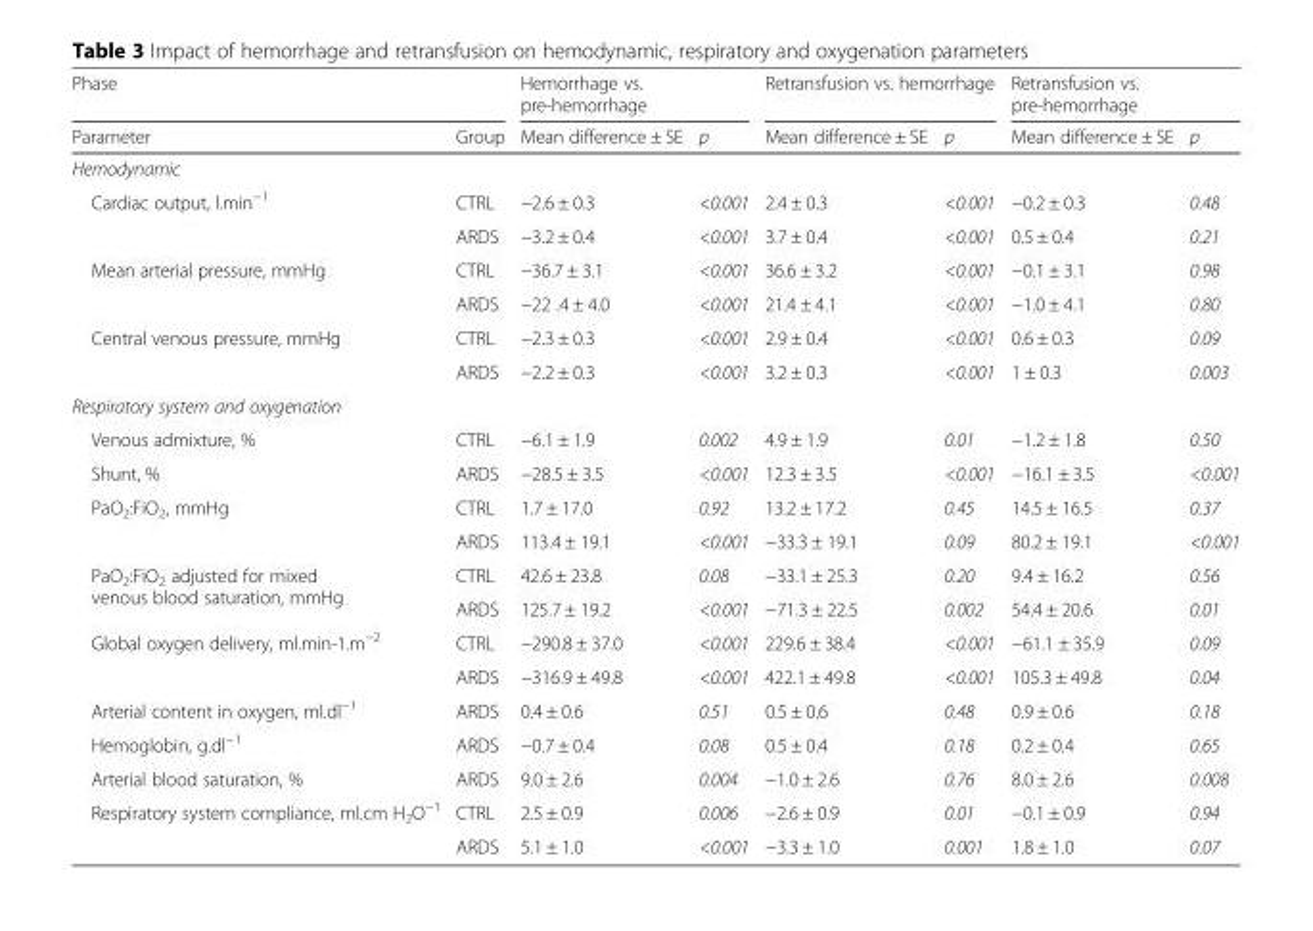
<table><thead><tr><td colspan="2">Phase</td><td colspan="2">Hemorrhage vs. pre-hemorrhage</td><td colspan="2">Retransfusion vs. hemorrhage</td><td colspan="2">Retransfusion vs. pre-hemorrhage</td></tr><tr><td>Parameter</td><td>Group</td><td>Mean difference ± SE</td><td>p</td><td>Mean difference ± SE</td><td>p</td><td>Mean difference ± SE</td><td>p</td></tr></thead><tbody><tr><td colspan="8">Hemodynamic</td></tr><tr><td rowspan="2">Cardiac output, l.min<sup>−1</sup></td><td>CTRL</td><td>−2.6 ± 0.3</td><td>&lt;0.001</td><td>2.4 ± 0.3</td><td>&lt;0.001</td><td>−0.2 ± 0.3</td><td>0.48</td></tr><tr><td>ARDS</td><td>−3.2 ± 0.4</td><td>&lt;0.001</td><td>3.7 ± 0.4</td><td>&lt;0.001</td><td>0.5 ± 0.4</td><td>0.21</td></tr><tr><td rowspan="2">Mean arterial pressure, mmHg</td><td>CTRL</td><td>−36.7 ± 3.1</td><td>&lt;0.001</td><td>36.6 ± 3.2</td><td>&lt;0.001</td><td>−0.1 ± 3.1</td><td>0.98</td></tr><tr><td>ARDS</td><td>−22 .4 ± 4.0</td><td>&lt;0.001</td><td>21.4 ± 4.1</td><td>&lt;0.001</td><td>−1.0 ± 4.1</td><td>0.80</td></tr><tr><td rowspan="2">Central venous pressure, mmHg</td><td>CTRL</td><td>−2.3 ± 0.3</td><td>&lt;0.001</td><td>2.9 ± 0.4</td><td>&lt;0.001</td><td>0.6 ± 0.3</td><td>0.09</td></tr><tr><td>ARDS</td><td>−2.2 ± 0.3</td><td>&lt;0.001</td><td>3.2 ± 0.3</td><td>&lt;0.001</td><td>1 ± 0.3</td><td>0.003</td></tr><tr><td colspan="8">Respiratory system and oxygenation</td></tr><tr><td>Venous admixture, %</td><td>CTRL</td><td>−6.1 ± 1.9</td><td>0.002</td><td>4.9 ± 1.9</td><td>0.01</td><td>−1.2 ± 1.8</td><td>0.50</td></tr><tr><td>Shunt, %</td><td>ARDS</td><td>−28.5 ± 3.5</td><td>&lt;0.001</td><td>12.3 ± 3.5</td><td>&lt;0.001</td><td>−16.1 ± 3.5</td><td>&lt;0.001</td></tr><tr><td rowspan="2">PaO<sub>2</sub>:FiO<sub>2</sub>, mmHg</td><td>CTRL</td><td>1.7 ± 17.0</td><td>0.92</td><td>13.2 ± 17.2</td><td>0.45</td><td>14.5 ± 16.5</td><td>0.37</td></tr><tr><td>ARDS</td><td>113.4 ± 19.1</td><td>&lt;0.001</td><td>−33.3 ± 19.1</td><td>0.09</td><td>80.2 ± 19.1</td><td>&lt;0.001</td></tr><tr><td rowspan="2">PaO<sub>2</sub>:FiO<sub>2</sub> adjusted for mixed venous blood saturation, mmHg</td><td>CTRL</td><td>42.6 ± 23.8</td><td>0.08</td><td>−33.1 ± 25.3</td><td>0.20</td><td>9.4 ± 16.2</td><td>0.56</td></tr><tr><td>ARDS</td><td>125.7 ± 19.2</td><td>&lt;0.001</td><td>−71.3 ± 22.5</td><td>0.002</td><td>54.4 ± 20.6</td><td>0.01</td></tr><tr><td rowspan="2">Global oxygen delivery, ml.min-1.m<sup>−2</sup></td><td>CTRL</td><td>−290.8 ± 37.0</td><td>&lt;0.001</td><td>229.6 ± 38.4</td><td>&lt;0.001</td><td>−61.1 ± 35.9</td><td>0.09</td></tr><tr><td>ARDS</td><td>−316.9 ± 49.8</td><td>&lt;0.001</td><td>422.1 ± 49.8</td><td>&lt;0.001</td><td>105.3 ± 49.8</td><td>0.04</td></tr><tr><td>Arterial content in oxygen, ml.dl<sup>−1</sup></td><td>ARDS</td><td>0.4 ± 0.6</td><td>0.51</td><td>0.5 ± 0.6</td><td>0.48</td><td>0.9 ± 0.6</td><td>0.18</td></tr><tr><td>Hemoglobin, g.dl<sup>−1</sup></td><td>ARDS</td><td>−0.7 ± 0.4</td><td>0.08</td><td>0.5 ± 0.4</td><td>0.18</td><td>0.2 ± 0.4</td><td>0.65</td></tr><tr><td>Arterial blood saturation, %</td><td>ARDS</td><td>9.0 ± 2.6</td><td>0.004</td><td>−1.0 ± 2.6</td><td>0.76</td><td>8.0 ± 2.6</td><td>0.008</td></tr><tr><td rowspan="2">Respiratory system compliance, ml.cm H<sub>2</sub>O<sup>−1</sup></td><td>CTRL</td><td>2.5 ± 0.9</td><td>0.006</td><td>−2.6 ± 0.9</td><td>0.01</td><td>−0.1 ± 0.9</td><td>0.94</td></tr><tr><td>ARDS</td><td>5.1 ± 1.0</td><td>&lt;0.001</td><td>−3.3 ± 1.0</td><td>0.001</td><td>1.8 ± 1.0</td><td>0.07</td></tr></tbody></table>